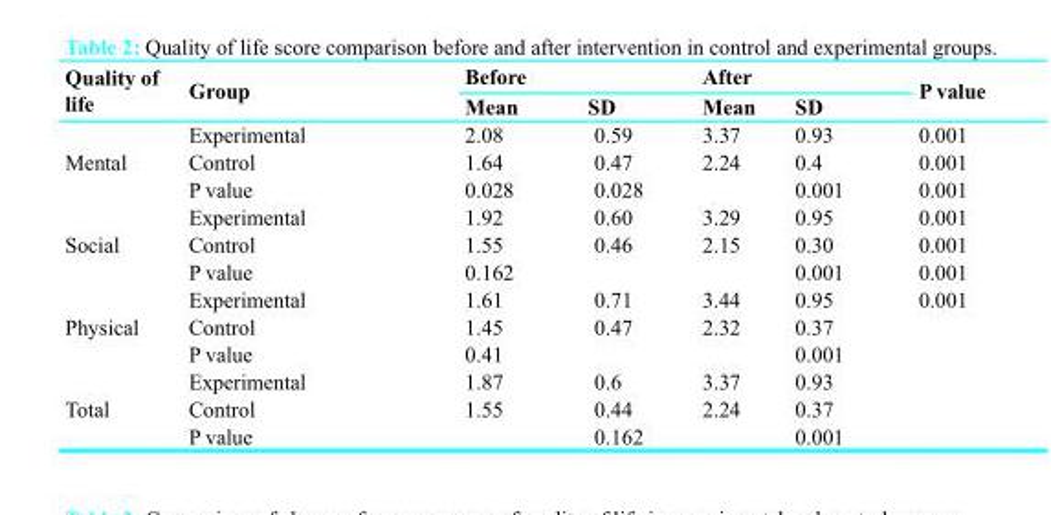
<table><thead><tr><td rowspan="2">Quality of life</td><td rowspan="2">Group</td><td colspan="2">Before</td><td colspan="2">After</td><td rowspan="2">P value</td></tr><tr><td>Mean</td><td>SD</td><td>Mean</td><td>SD</td></tr></thead><tbody><tr><td rowspan="3">Mental</td><td>Experimental</td><td>2.08</td><td>0.59</td><td>3.37</td><td>0.93</td><td>0.001</td></tr><tr><td>Control</td><td>1.64</td><td>0.47</td><td>2.24</td><td>0.4</td><td>0.001</td></tr><tr><td>P value</td><td>0.028</td><td>0.028</td><td></td><td>0.001</td><td>0.001</td></tr><tr><td rowspan="3">Social</td><td>Experimental</td><td>1.92</td><td>0.60</td><td>3.29</td><td>0.95</td><td>0.001</td></tr><tr><td>Control</td><td>1.55</td><td>0.46</td><td>2.15</td><td>0.30</td><td>0.001</td></tr><tr><td>P value</td><td>0.162</td><td></td><td></td><td>0.001</td><td>0.001</td></tr><tr><td rowspan="3">Physical</td><td>Experimental</td><td>1.61</td><td>0.71</td><td>3.44</td><td>0.95</td><td>0.001</td></tr><tr><td>Control</td><td>1.45</td><td>0.47</td><td>2.32</td><td>0.37</td><td></td></tr><tr><td>P value</td><td>0.41</td><td></td><td></td><td>0.001</td><td></td></tr><tr><td rowspan="3">Total</td><td>Experimental</td><td>1.87</td><td>0.6</td><td>3.37</td><td>0.93</td><td></td></tr><tr><td>Control</td><td>1.55</td><td>0.44</td><td>2.24</td><td>0.37</td><td></td></tr><tr><td>P value</td><td></td><td>0.162</td><td></td><td>0.001</td><td></td></tr></tbody></table>